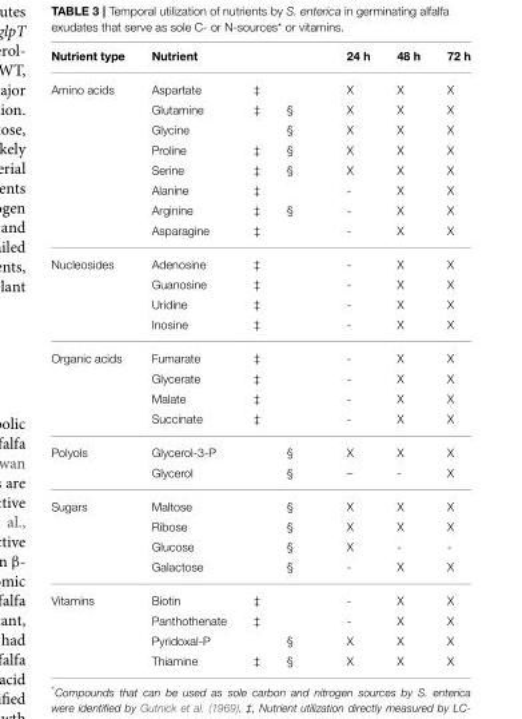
<table><thead><tr><td>Nutrient type</td><td>Nutrient</td><td></td><td></td><td>24 h</td><td>48 h</td><td>72 h</td></tr></thead><tbody><tr><td rowspan="8">Amino acids</td><td>Aspartate</td><td>‡</td><td></td><td>X</td><td>X</td><td>X</td></tr><tr><td>Glutamine</td><td>‡</td><td>§</td><td>X</td><td>X</td><td>X</td></tr><tr><td>Glycine</td><td></td><td>§</td><td>X</td><td>X</td><td>X</td></tr><tr><td>Proline</td><td>‡</td><td>§</td><td>X</td><td>X</td><td>X</td></tr><tr><td>Serine</td><td>‡</td><td>§</td><td>X</td><td>X</td><td>X</td></tr><tr><td>Alanine</td><td>‡</td><td></td><td>-</td><td>X</td><td>X</td></tr><tr><td>Arginine</td><td>‡</td><td>§</td><td>-</td><td>X</td><td>X</td></tr><tr><td>Asparagine</td><td>‡</td><td></td><td>-</td><td>X</td><td>X</td></tr><tr><td rowspan="4">Nucleosides</td><td>Adenosine</td><td>‡</td><td></td><td>-</td><td>X</td><td>X</td></tr><tr><td>Guanosine</td><td>‡</td><td></td><td>-</td><td>X</td><td>X</td></tr><tr><td>Uridine</td><td>‡</td><td></td><td>-</td><td>X</td><td>X</td></tr><tr><td>Inosine</td><td>‡</td><td></td><td>-</td><td>X</td><td>X</td></tr><tr><td rowspan="4">Organic acids</td><td>Fumarate</td><td>‡</td><td></td><td>-</td><td>X</td><td>X</td></tr><tr><td>Glycerate</td><td>‡</td><td></td><td>-</td><td>X</td><td>X</td></tr><tr><td>Malate</td><td>‡</td><td></td><td>-</td><td>X</td><td>X</td></tr><tr><td>Succinate</td><td>‡</td><td></td><td>-</td><td>X</td><td>X</td></tr><tr><td rowspan="2">Polyols</td><td>Glycerol-3-P</td><td></td><td>§</td><td>X</td><td>X</td><td>X</td></tr><tr><td>Glycerol</td><td></td><td>§</td><td>–</td><td>-</td><td>X</td></tr><tr><td rowspan="4">Sugars</td><td>Maltose</td><td></td><td>§</td><td>X</td><td>X</td><td>X</td></tr><tr><td>Ribose</td><td></td><td>§</td><td>X</td><td>X</td><td>X</td></tr><tr><td>Glucose</td><td></td><td>§</td><td>X</td><td>-</td><td>-</td></tr><tr><td>Galactose</td><td></td><td>§</td><td>-</td><td>X</td><td>X</td></tr><tr><td rowspan="4">Vitamins</td><td>Biotin</td><td>‡</td><td></td><td>-</td><td>X</td><td>X</td></tr><tr><td>Panthothenate</td><td>‡</td><td></td><td>-</td><td>X</td><td>X</td></tr><tr><td>Pyridoxal-P</td><td></td><td>§</td><td>X</td><td>X</td><td>X</td></tr><tr><td>Thiamine</td><td>‡</td><td>§</td><td>X</td><td>X</td><td>X</td></tr></tbody></table>